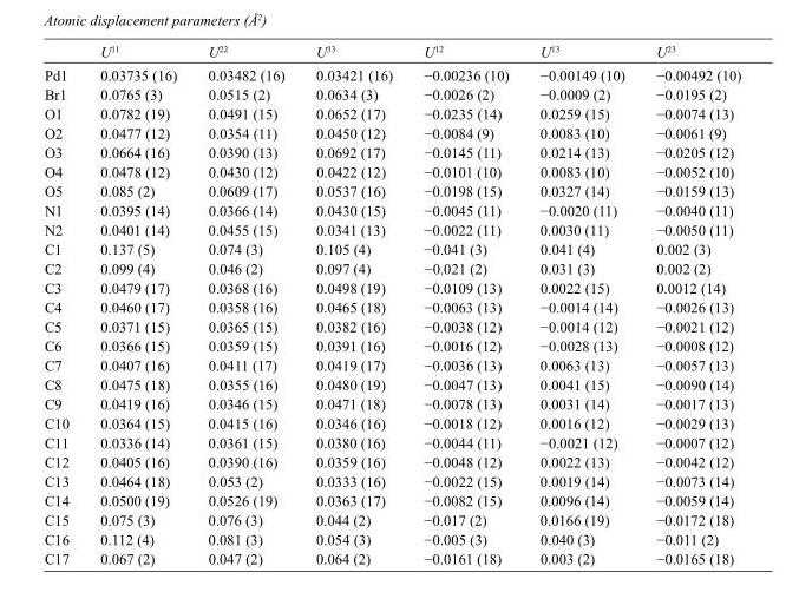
<table><thead><tr><td></td><td>U<sup>11</sup></td><td>U<sup>22</sup></td><td>U<sup>33</sup></td><td>U<sup>12</sup></td><td>U<sup>13</sup></td><td>U<sup>23</sup></td></tr></thead><tbody><tr><td>Pd1</td><td>0.03735 (16)</td><td>0.03482 (16)</td><td>0.03421 (16)</td><td>−0.00236 (10)</td><td>−0.00149 (10)</td><td>−0.00492 (10)</td></tr><tr><td>Br1</td><td>0.0765 (3)</td><td>0.0515 (2)</td><td>0.0634 (3)</td><td>−0.0026 (2)</td><td>−0.0009 (2)</td><td>−0.0195 (2)</td></tr><tr><td>O1</td><td>0.0782 (19)</td><td>0.0491 (15)</td><td>0.0652 (17)</td><td>−0.0235 (14)</td><td>0.0259 (15)</td><td>−0.0074 (13)</td></tr><tr><td>O2</td><td>0.0477 (12)</td><td>0.0354 (11)</td><td>0.0450 (12)</td><td>−0.0084 (9)</td><td>0.0083 (10)</td><td>−0.0061 (9)</td></tr><tr><td>O3</td><td>0.0664 (16)</td><td>0.0390 (13)</td><td>0.0692 (17)</td><td>−0.0145 (11)</td><td>0.0214 (13)</td><td>−0.0205 (12)</td></tr><tr><td>O4</td><td>0.0478 (12)</td><td>0.0430 (12)</td><td>0.0422 (12)</td><td>−0.0101 (10)</td><td>0.0083 (10)</td><td>−0.0052 (10)</td></tr><tr><td>O5</td><td>0.085 (2)</td><td>0.0609 (17)</td><td>0.0537 (16)</td><td>−0.0198 (15)</td><td>0.0327 (14)</td><td>−0.0159 (13)</td></tr><tr><td>N1</td><td>0.0395 (14)</td><td>0.0366 (14)</td><td>0.0430 (15)</td><td>−0.0045 (11)</td><td>−0.0020 (11)</td><td>−0.0040 (11)</td></tr><tr><td>N2</td><td>0.0401 (14)</td><td>0.0455 (15)</td><td>0.0341 (13)</td><td>−0.0022 (11)</td><td>0.0030 (11)</td><td>−0.0050 (11)</td></tr><tr><td>C1</td><td>0.137 (5)</td><td>0.074 (3)</td><td>0.105 (4)</td><td>−0.041 (3)</td><td>0.041 (4)</td><td>0.002 (3)</td></tr><tr><td>C2</td><td>0.099 (4)</td><td>0.046 (2)</td><td>0.097 (4)</td><td>−0.021 (2)</td><td>0.031 (3)</td><td>0.002 (2)</td></tr><tr><td>C3</td><td>0.0479 (17)</td><td>0.0368 (16)</td><td>0.0498 (19)</td><td>−0.0109 (13)</td><td>0.0022 (15)</td><td>0.0012 (14)</td></tr><tr><td>C4</td><td>0.0460 (17)</td><td>0.0358 (16)</td><td>0.0465 (18)</td><td>−0.0063 (13)</td><td>−0.0014 (14)</td><td>−0.0026 (13)</td></tr><tr><td>C5</td><td>0.0371 (15)</td><td>0.0365 (15)</td><td>0.0382 (16)</td><td>−0.0038 (12)</td><td>−0.0014 (12)</td><td>−0.0021 (12)</td></tr><tr><td>C6</td><td>0.0366 (15)</td><td>0.0359 (15)</td><td>0.0391 (16)</td><td>−0.0016 (12)</td><td>−0.0028 (13)</td><td>−0.0008 (12)</td></tr><tr><td>C7</td><td>0.0407 (16)</td><td>0.0411 (17)</td><td>0.0419 (17)</td><td>−0.0036 (13)</td><td>0.0063 (13)</td><td>−0.0057 (13)</td></tr><tr><td>C8</td><td>0.0475 (18)</td><td>0.0355 (16)</td><td>0.0480 (19)</td><td>−0.0047 (13)</td><td>0.0041 (15)</td><td>−0.0090 (14)</td></tr><tr><td>C9</td><td>0.0419 (16)</td><td>0.0346 (15)</td><td>0.0471 (18)</td><td>−0.0078 (13)</td><td>0.0031 (14)</td><td>−0.0017 (13)</td></tr><tr><td>C10</td><td>0.0364 (15)</td><td>0.0415 (16)</td><td>0.0346 (16)</td><td>−0.0018 (12)</td><td>0.0016 (12)</td><td>−0.0029 (13)</td></tr><tr><td>C11</td><td>0.0336 (14)</td><td>0.0361 (15)</td><td>0.0380 (16)</td><td>−0.0044 (11)</td><td>−0.0021 (12)</td><td>−0.0007 (12)</td></tr><tr><td>C12</td><td>0.0405 (16)</td><td>0.0390 (16)</td><td>0.0359 (16)</td><td>−0.0048 (12)</td><td>0.0022 (13)</td><td>−0.0042 (12)</td></tr><tr><td>C13</td><td>0.0464 (18)</td><td>0.053 (2)</td><td>0.0333 (16)</td><td>−0.0022 (15)</td><td>0.0019 (14)</td><td>−0.0073 (14)</td></tr><tr><td>C14</td><td>0.0500 (19)</td><td>0.0526 (19)</td><td>0.0363 (17)</td><td>−0.0082 (15)</td><td>0.0096 (14)</td><td>−0.0059 (14)</td></tr><tr><td>C15</td><td>0.075 (3)</td><td>0.076 (3)</td><td>0.044 (2)</td><td>−0.017 (2)</td><td>0.0166 (19)</td><td>−0.0172 (18)</td></tr><tr><td>C16</td><td>0.112 (4)</td><td>0.081 (3)</td><td>0.054 (3)</td><td>−0.005 (3)</td><td>0.040 (3)</td><td>−0.011 (2)</td></tr><tr><td>C17</td><td>0.067 (2)</td><td>0.047 (2)</td><td>0.064 (2)</td><td>−0.0161 (18)</td><td>0.003 (2)</td><td>−0.0165 (18)</td></tr></tbody></table>